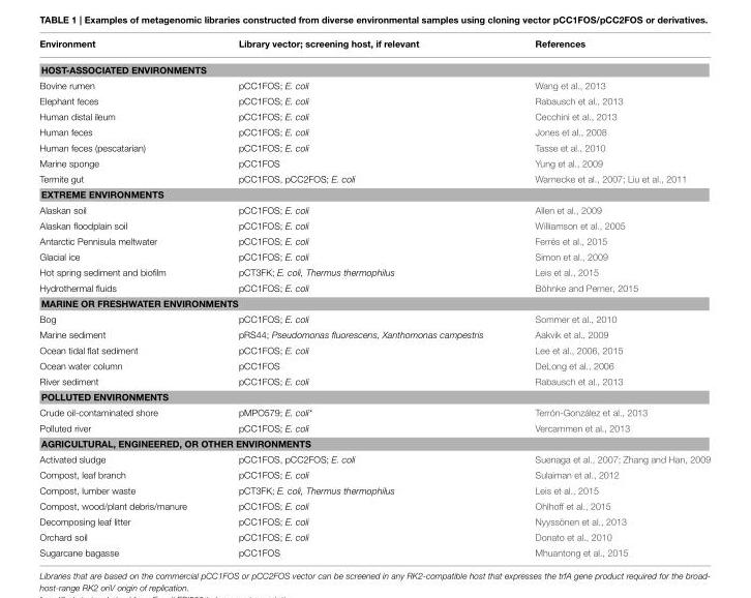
<table><thead><tr><td>Environment</td><td>Library vector; screening host, if relevant</td><td>References</td></tr></thead><tbody><tr><td colspan="3">HOST-ASSOCIATED ENVIRONMENTS</td></tr><tr><td>Bovine rumen</td><td>pCC1FOS; E. coli</td><td>Wang et al., 2013</td></tr><tr><td>Elephant feces</td><td>pCC1FOS; E. coli</td><td>Rabausch et al., 2013</td></tr><tr><td>Human distal ileum</td><td>pCC1FOS; E. coli</td><td>Cecchini et al., 2013</td></tr><tr><td>Human feces</td><td>pCC1FOS; E. coli</td><td>Jones et al., 2008</td></tr><tr><td>Human feces (pescatarian)</td><td>pCC1FOS; E. coli</td><td>Tasse et al., 2010</td></tr><tr><td>Marine sponge</td><td>pCC1FOS</td><td>Yung et al., 2009</td></tr><tr><td>Termite gut</td><td>pCC1FOS, pCC2FOS; E. coli</td><td>Warnecke et al., 2007; Liu et al., 2011</td></tr><tr><td colspan="3">EXTREME ENVIRONMENTS</td></tr><tr><td>Alaskan soil</td><td>pCC1FOS; E. coli</td><td>Allen et al., 2009</td></tr><tr><td>Alaskan floodplain soil</td><td>pCC1FOS; E. coli</td><td>Williamson et al., 2005</td></tr><tr><td>Antarctic Pennisula meltwater</td><td>pCC1FOS; E. coli</td><td>Ferrés et al., 2015</td></tr><tr><td>Glacial ice</td><td>pCC1FOS; E. coli</td><td>Simon et al., 2009</td></tr><tr><td>Hot spring sediment and biofilm</td><td>pCT3FK; E. coli, Thermus thermophilus</td><td>Leis et al., 2015</td></tr><tr><td>Hydrothermal fluids</td><td>pCC1FOS; E. coli</td><td>Böhnke and Perner, 2015</td></tr><tr><td colspan="3">MARINE OR FRESHWATER ENVIRONMENTS</td></tr><tr><td>Bog</td><td>pCC1FOS; E. coli</td><td>Sommer et al., 2010</td></tr><tr><td>Marine sediment</td><td>pRS44; Pseudomonas fluorescens, Xanthomonas campestris</td><td>Aakvik et al., 2009</td></tr><tr><td>Ocean tidal flat sediment</td><td>pCC1FOS; E. coli</td><td>Lee et al., 2006, 2015</td></tr><tr><td>Ocean water column</td><td>pCC1FOS</td><td>DeLong et al., 2006</td></tr><tr><td>River sediment</td><td>pCC1FOS; E. coli</td><td>Rabausch et al., 2013</td></tr><tr><td colspan="3">POLLUTED ENVIRONMENTS</td></tr><tr><td>Crude oil-contaminated shore</td><td>pMPO579; E. coli*</td><td>Terrón-González et al., 2013</td></tr><tr><td>Polluted river</td><td>pCC1FOS; E. coli</td><td>Vercammen et al., 2013</td></tr><tr><td colspan="3">AGRICULTURAL, ENGINEERED, OR OTHER ENVIRONMENTS</td></tr><tr><td>Activated sludge</td><td>pCC1FOS, pCC2FOS; E. coli</td><td>Suenaga et al., 2007; Zhang and Han, 2009</td></tr><tr><td>Compost, leaf branch</td><td>pCC1FOS; E. coli</td><td>Sulaiman et al., 2012</td></tr><tr><td>Compost, lumber waste</td><td>pCT3FK; E. coli, Thermus thermophilus</td><td>Leis et al., 2015</td></tr><tr><td>Compost, wood/plant debris/manure</td><td>pCC1FOS; E. coli</td><td>Ohlhoff et al., 2015</td></tr><tr><td>Decomposing leaf litter</td><td>pCC1FOS; E. coli</td><td>Nyyssönen et al., 2013</td></tr><tr><td>Orchard soil</td><td>pCC1FOS; E. coli</td><td>Donato et al., 2010</td></tr><tr><td>Sugarcane bagasse</td><td>pCC1FOS</td><td>Mhuantong et al., 2015</td></tr></tbody></table>